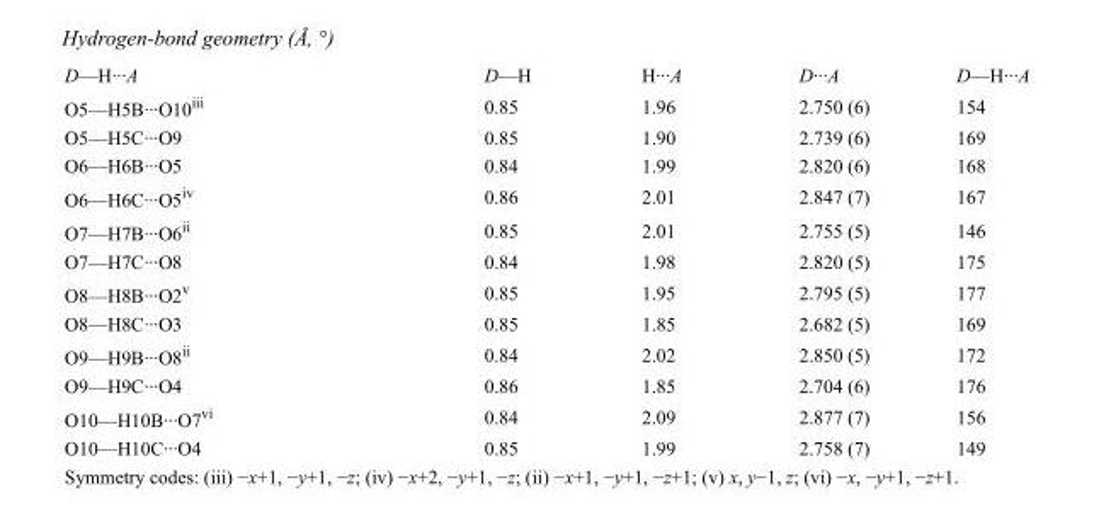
<table><tbody><tr><td>D—H···A</td><td>D—H</td><td>H···A</td><td>D···A</td><td>D—H···A</td></tr><tr><td>O5—H5B···O10<sup>iii</sup></td><td>0.85</td><td>1.96</td><td>2.750 (6)</td><td>154</td></tr><tr><td>O5—H5C···O9</td><td>0.85</td><td>1.90</td><td>2.739 (6)</td><td>169</td></tr><tr><td>O6—H6B···O5</td><td>0.84</td><td>1.99</td><td>2.820 (6)</td><td>168</td></tr><tr><td>O6—H6C···O5<sup>iv</sup></td><td>0.86</td><td>2.01</td><td>2.847 (7)</td><td>167</td></tr><tr><td>O7—H7B···O6<sup>ii</sup></td><td>0.85</td><td>2.01</td><td>2.755 (5)</td><td>146</td></tr><tr><td>O7—H7C···O8</td><td>0.84</td><td>1.98</td><td>2.820 (5)</td><td>175</td></tr><tr><td>O8—H8B···O2<sup>v</sup></td><td>0.85</td><td>1.95</td><td>2.795 (5)</td><td>177</td></tr><tr><td>O8—H8C···O3</td><td>0.85</td><td>1.85</td><td>2.682 (5)</td><td>169</td></tr><tr><td>O9—H9B···O8<sup>ii</sup></td><td>0.84</td><td>2.02</td><td>2.850 (5)</td><td>172</td></tr><tr><td>O9—H9C···O4</td><td>0.86</td><td>1.85</td><td>2.704 (6)</td><td>176</td></tr><tr><td>O10—H10B···O7<sup>vi</sup></td><td>0.84</td><td>2.09</td><td>2.877 (7)</td><td>156</td></tr><tr><td>O10—H10C···O4</td><td>0.85</td><td>1.99</td><td>2.758 (7)</td><td>149</td></tr></tbody></table>